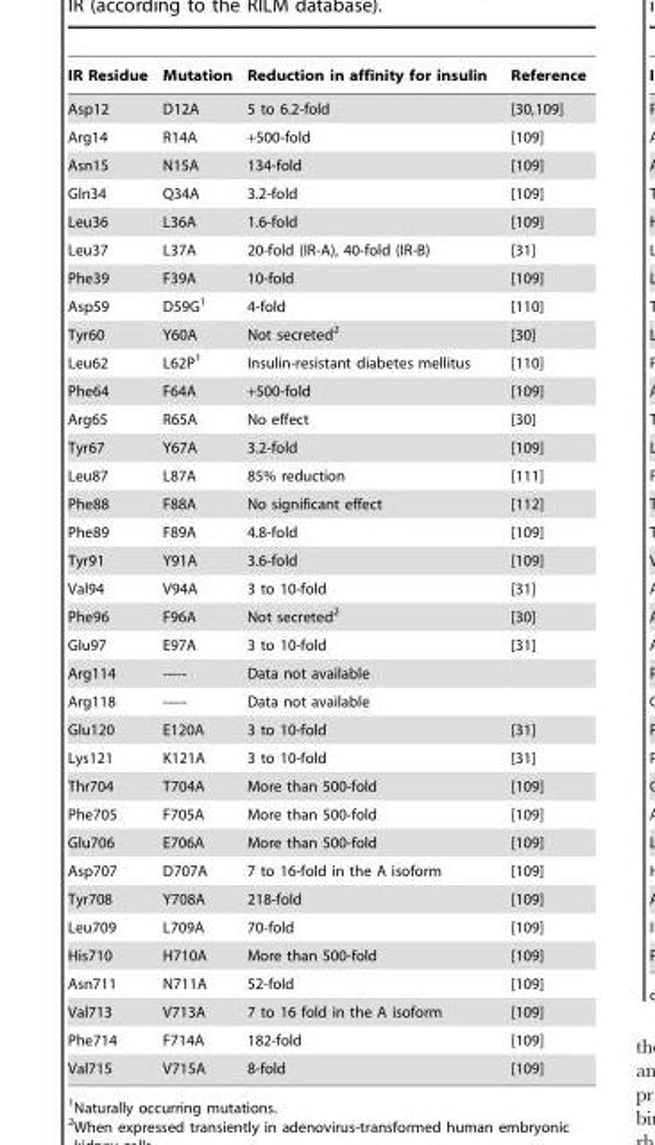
<table><thead><tr><td>IR Residue</td><td>Mutation</td><td>Reduction in affinity for insulin</td><td>Reference</td></tr></thead><tbody><tr><td>Asp12</td><td>D12A</td><td>5 to 6.2-fold</td><td>[30,109]</td></tr><tr><td>Arg14</td><td>R14A</td><td>+500-fold</td><td>[109]</td></tr><tr><td>Asn15</td><td>N15A</td><td>134-fold</td><td>[109]</td></tr><tr><td>Gln34</td><td>Q34A</td><td>3.2-fold</td><td>[109]</td></tr><tr><td>Leu36</td><td>L36A</td><td>1.6-fold</td><td>[109]</td></tr><tr><td>Leu37</td><td>L37A</td><td>20-fold (IR-A), 40-fold (IR-B)</td><td>[31]</td></tr><tr><td>Phe39</td><td>F39A</td><td>10-fold</td><td>[109]</td></tr><tr><td>Asp59</td><td>D59G<sup>1</sup></td><td>4-fold</td><td>[110]</td></tr><tr><td>Tyr60</td><td>Y60A</td><td>Not secreted<sup>2</sup></td><td>[30]</td></tr><tr><td>Leu62</td><td>L62P<sup>1</sup></td><td>Insulin-resistant diabetes mellitus</td><td>[110]</td></tr><tr><td>Phe64</td><td>F64A</td><td>+500-fold</td><td>[109]</td></tr><tr><td>Arg65</td><td>R65A</td><td>No effect</td><td>[30]</td></tr><tr><td>Tyr67</td><td>Y67A</td><td>3.2-fold</td><td>[109]</td></tr><tr><td>Leu87</td><td>L87A</td><td>85% reduction</td><td>[111]</td></tr><tr><td>Phe88</td><td>F88A</td><td>No significant effect</td><td>[112]</td></tr><tr><td>Phe89</td><td>F89A</td><td>4.8-fold</td><td>[109]</td></tr><tr><td>Tyr91</td><td>Y91A</td><td>3.6-fold</td><td>[109]</td></tr><tr><td>Val94</td><td>V94A</td><td>3 to 10-fold</td><td>[31]</td></tr><tr><td>Phe96</td><td>F96A</td><td>Not secreted<sup>2</sup></td><td>[30]</td></tr><tr><td>Glu97</td><td>E97A</td><td>3 to 10-fold</td><td>[31]</td></tr><tr><td>Arg114</td><td>-----</td><td>Data not available</td><td></td></tr><tr><td>Arg118</td><td>-----</td><td>Data not available</td><td></td></tr><tr><td>Glu120</td><td>E120A</td><td>3 to 10-fold</td><td>[31]</td></tr><tr><td>Lys121</td><td>K121A</td><td>3 to 10-fold</td><td>[31]</td></tr><tr><td>Thr704</td><td>T704A</td><td>More than 500-fold</td><td>[109]</td></tr><tr><td>Phe705</td><td>F705A</td><td>More than 500-fold</td><td>[109]</td></tr><tr><td>Glu706</td><td>E706A</td><td>More than 500-fold</td><td>[109]</td></tr><tr><td>Asp707</td><td>D707A</td><td>7 to 16-fold in the A isoform</td><td>[109]</td></tr><tr><td>Tyr708</td><td>Y708A</td><td>218-fold</td><td>[109]</td></tr><tr><td>Leu709</td><td>L709A</td><td>70-fold</td><td>[109]</td></tr><tr><td>His710</td><td>H710A</td><td>More than 500-fold</td><td>[109]</td></tr><tr><td>Asn711</td><td>N711A</td><td>52-fold</td><td>[109]</td></tr><tr><td>Val713</td><td>V713A</td><td>7 to 16 fold in the A isoform</td><td>[109]</td></tr><tr><td>Phe714</td><td>F714A</td><td>182-fold</td><td>[109]</td></tr><tr><td>Val715</td><td>V715A</td><td>8-fold</td><td>[109]</td></tr></tbody></table>